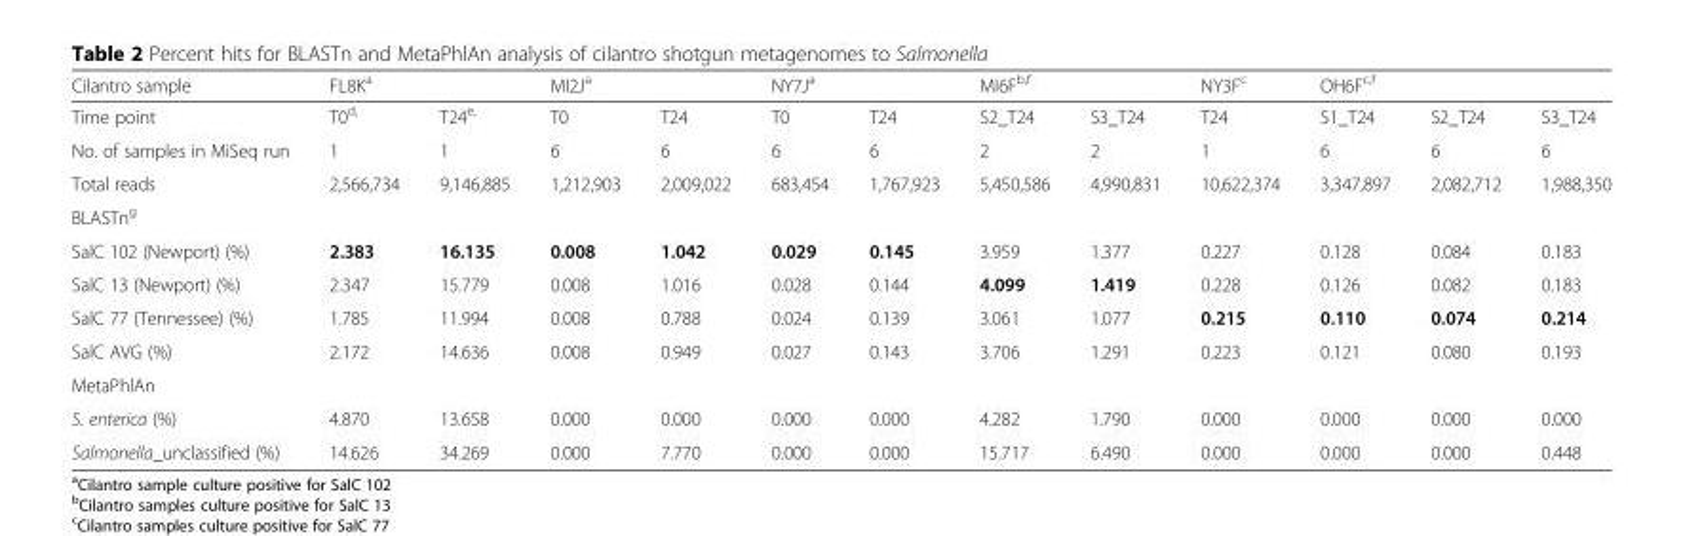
<table><thead><tr><td rowspan="2">Cilantro sample Time point</td><td colspan="2">FL8K<sup>a</sup></td><td colspan="2">MI2J<sup>a</sup></td><td colspan="2">NY7J<sup>a</sup></td><td colspan="2">MI6F<sup>b,f</sup></td><td rowspan="2">NY3F<sup>c</sup> T24</td><td colspan="3">OH6F<sup>c,f</sup></td></tr><tr><td>T0<sup>d,</sup></td><td>T24<sup>e,</sup></td><td>T0</td><td>T24</td><td>T0</td><td>T24</td><td>S2_T24</td><td>S3_T24</td><td>S1_T24</td><td>S2_T24</td><td>S3_T24</td></tr></thead><tbody><tr><td>No. of samples in MiSeq run</td><td>1</td><td>1</td><td>6</td><td>6</td><td>6</td><td>6</td><td>2</td><td>2</td><td>1</td><td>6</td><td>6</td><td>6</td></tr><tr><td>Total reads</td><td>2,566,734</td><td>9,146,885</td><td>1,212,903</td><td>2,009,022</td><td>683,454</td><td>1,767,923</td><td>5,450,586</td><td>4,990,831</td><td>10,622,374</td><td>3,347,897</td><td>2,082,712</td><td>1,988,350</td></tr><tr><td colspan="13">BLASTn<sup>g</sup></td></tr><tr><td>SalC 102 (Newport) (%)</td><td>2.383</td><td>16.135</td><td>0.008</td><td>1.042</td><td>0.029</td><td>0.145</td><td>3.959</td><td>1.377</td><td>0.227</td><td>0.128</td><td>0.084</td><td>0.183</td></tr><tr><td>SalC 13 (Newport) (%)</td><td>2.347</td><td>15.779</td><td>0.008</td><td>1.016</td><td>0.028</td><td>0.144</td><td>4.099</td><td>1.419</td><td>0.228</td><td>0.126</td><td>0.082</td><td>0.183</td></tr><tr><td>SalC 77 (Tennessee) (%)</td><td>1.785</td><td>11.994</td><td>0.008</td><td>0.788</td><td>0.024</td><td>0.139</td><td>3.061</td><td>1.077</td><td>0.215</td><td>0.110</td><td>0.074</td><td>0.214</td></tr><tr><td>SalC AVG (%)</td><td>2.172</td><td>14.636</td><td>0.008</td><td>0.949</td><td>0.027</td><td>0.143</td><td>3.706</td><td>1.291</td><td>0.223</td><td>0.121</td><td>0.080</td><td>0.193</td></tr><tr><td colspan="13">MetaPhlAn</td></tr><tr><td>S. enterica (%)</td><td>4.870</td><td>13.658</td><td>0.000</td><td>0.000</td><td>0.000</td><td>0.000</td><td>4.282</td><td>1.790</td><td>0.000</td><td>0.000</td><td>0.000</td><td>0.000</td></tr><tr><td>Salmonella_unclassified (%)</td><td>14.626</td><td>34.269</td><td>0.000</td><td>7.770</td><td>0.000</td><td>0.000</td><td>15.717</td><td>6.490</td><td>0.000</td><td>0.000</td><td>0.000</td><td>0.448</td></tr></tbody></table>